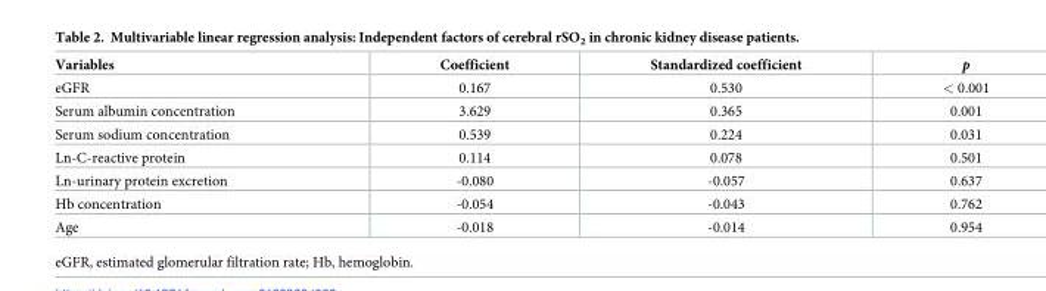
<table><thead><tr><td>Variables</td><td>Coefficient</td><td>Standardized coefficient</td><td>p</td></tr></thead><tbody><tr><td>eGFR</td><td>0.167</td><td>0.530</td><td>&lt; 0.001</td></tr><tr><td>Serum albumin concentration</td><td>3.629</td><td>0.365</td><td>0.001</td></tr><tr><td>Serum sodium concentration</td><td>0.539</td><td>0.224</td><td>0.031</td></tr><tr><td>Ln-C-reactive protein</td><td>0.114</td><td>0.078</td><td>0.501</td></tr><tr><td>Ln-urinary protein excretion</td><td>-0.080</td><td>-0.057</td><td>0.637</td></tr><tr><td>Hb concentration</td><td>-0.054</td><td>-0.043</td><td>0.762</td></tr><tr><td>Age</td><td>-0.018</td><td>-0.014</td><td>0.954</td></tr></tbody></table>